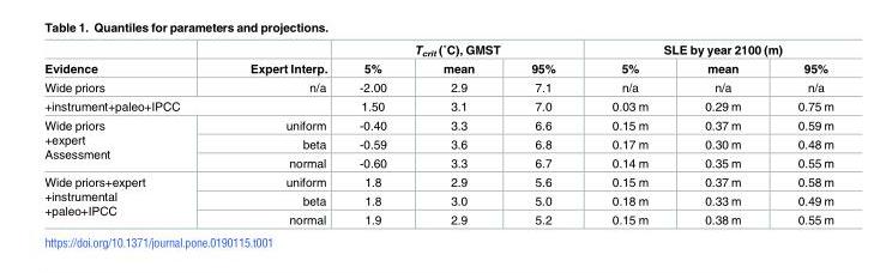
<table><thead><tr><td rowspan="2">Evidence</td><td rowspan="2">Expert Interp.</td><td colspan="3">Tcrit (˚C), GMST</td><td colspan="3">SLE by year 2100 (m)</td></tr><tr><td>5%</td><td>mean</td><td>95%</td><td>5%</td><td>mean</td><td>95%</td></tr></thead><tbody><tr><td>Wide priors</td><td>n/a</td><td>-2.00</td><td>2.9</td><td>7.1</td><td>n/a</td><td>n/a</td><td>n/a</td></tr><tr><td colspan="2">+instrument+paleo+IPCC</td><td>1.50</td><td>3.1</td><td>7.0</td><td>0.03 m</td><td>0.29 m</td><td>0.75 m</td></tr><tr><td rowspan="3">Wide priors +expert Assessment</td><td>uniform</td><td>-0.40</td><td>3.3</td><td>6.6</td><td>0.15 m</td><td>0.37 m</td><td>0.59 m</td></tr><tr><td>beta</td><td>-0.59</td><td>3.6</td><td>6.8</td><td>0.17 m</td><td>0.30 m</td><td>0.48 m</td></tr><tr><td>normal</td><td>-0.60</td><td>3.3</td><td>6.7</td><td>0.14 m</td><td>0.35 m</td><td>0.55 m</td></tr><tr><td rowspan="3">Wide priors+expert +instrumental +paleo+IPCC</td><td>uniform</td><td>1.8</td><td>2.9</td><td>5.6</td><td>0.15 m</td><td>0.37 m</td><td>0.58 m</td></tr><tr><td>beta</td><td>1.8</td><td>3.0</td><td>5.0</td><td>0.18 m</td><td>0.33 m</td><td>0.49 m</td></tr><tr><td>normal</td><td>1.9</td><td>2.9</td><td>5.2</td><td>0.15 m</td><td>0.38 m</td><td>0.55 m</td></tr></tbody></table>